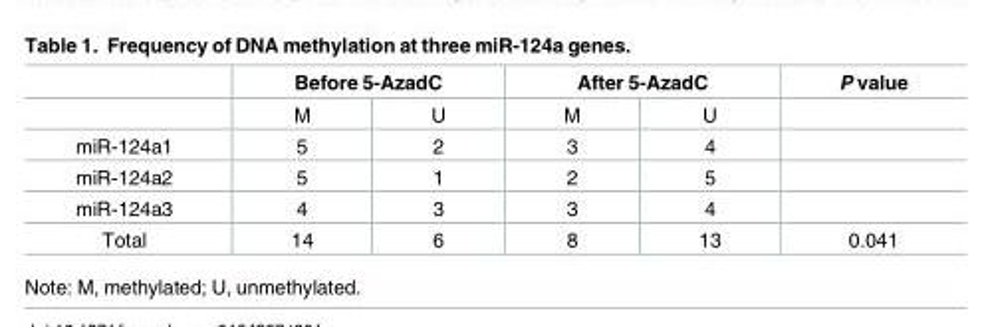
<table><thead><tr><td rowspan="2"></td><td colspan="2">Before 5-AzadC</td><td colspan="2">After 5-AzadC</td><td rowspan="2">P value</td></tr><tr><td>M</td><td>U</td><td>M</td><td>U</td></tr></thead><tbody><tr><td>miR-124a1</td><td>5</td><td>2</td><td>3</td><td>4</td><td></td></tr><tr><td>miR-124a2</td><td>5</td><td>1</td><td>2</td><td>5</td><td></td></tr><tr><td>miR-124a3</td><td>4</td><td>3</td><td>3</td><td>4</td><td></td></tr><tr><td>Total</td><td>14</td><td>6</td><td>8</td><td>13</td><td>0.041</td></tr></tbody></table>